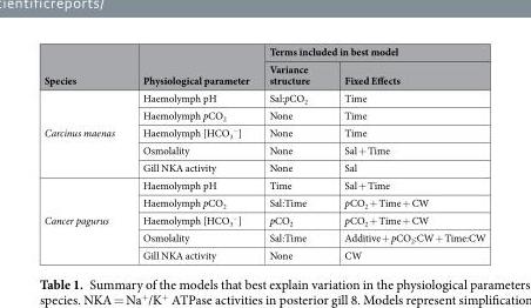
<table><thead><tr><td rowspan="2">Species</td><td rowspan="2">Physiological parameter</td><td colspan="2">Terms included in best model</td></tr><tr><td>Variance structure</td><td>Fixed Effects</td></tr></thead><tbody><tr><td rowspan="5">Carcinus maenas</td><td>Haemolymph pH</td><td>Sal:pCO<sub>2</sub></td><td>Time</td></tr><tr><td>Haemolymph pCO<sub>2</sub></td><td>None</td><td>Time</td></tr><tr><td>Haemolymph [HCO<sub>3</sub> <sup>−</sup>]</td><td>None</td><td>Time</td></tr><tr><td>Osmolality</td><td>None</td><td>Sal + Time</td></tr><tr><td>Gill NKA activity</td><td>None</td><td>Sal</td></tr><tr><td rowspan="5">Cancer pagurus</td><td>Haemolymph pH</td><td>Time</td><td>Sal + Time</td></tr><tr><td>Haemolymph pCO<sub>2</sub></td><td>Sal:Time</td><td>pCO<sub>2</sub> + Time + CW</td></tr><tr><td>Haemolymph [HCO<sub>3</sub> <sup>−</sup>]</td><td>pCO<sub>2</sub></td><td>pCO<sub>2</sub> + Time + CW</td></tr><tr><td>Osmolality</td><td>Sal:Time</td><td>Additive + pCO<sub>2</sub>:CW + Time:CW</td></tr><tr><td>Gill NKA activity</td><td>None</td><td>CW</td></tr></tbody></table>